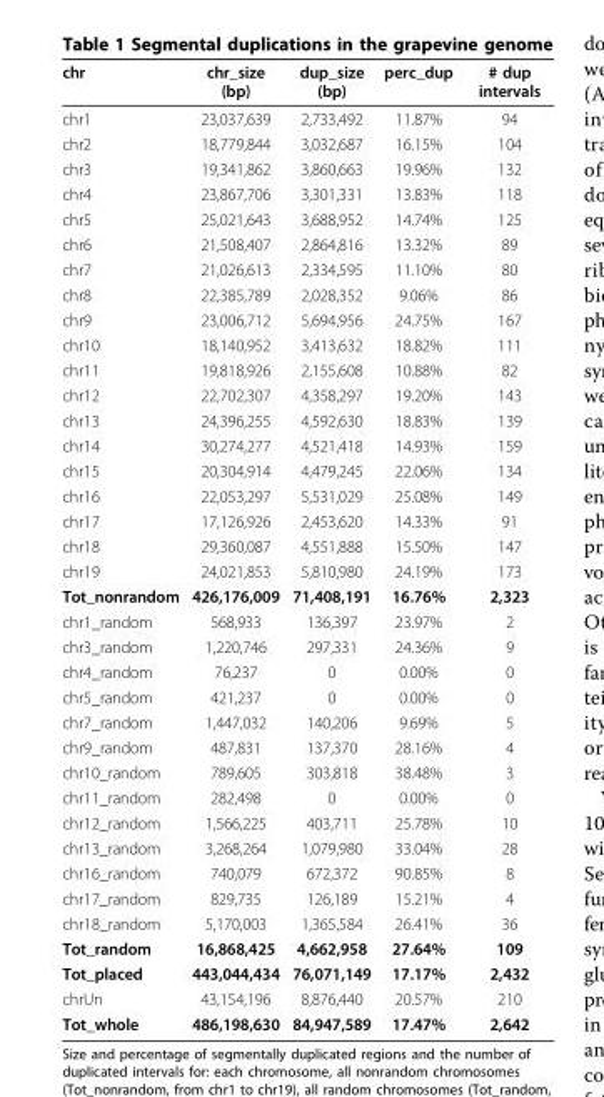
<table><thead><tr><td>chr</td><td>chr_size (bp)</td><td>dup_size (bp)</td><td>perc_dup</td><td># dup intervals</td></tr></thead><tbody><tr><td>chr1</td><td>23,037,639</td><td>2,733,492</td><td>11.87%</td><td>94</td></tr><tr><td>chr2</td><td>18,779,844</td><td>3,032,687</td><td>16.15%</td><td>104</td></tr><tr><td>chr3</td><td>19,341,862</td><td>3,860,663</td><td>19.96%</td><td>132</td></tr><tr><td>chr4</td><td>23,867,706</td><td>3,301,331</td><td>13.83%</td><td>118</td></tr><tr><td>chr5</td><td>25,021,643</td><td>3,688,952</td><td>14.74%</td><td>125</td></tr><tr><td>chr6</td><td>21,508,407</td><td>2,864,816</td><td>13.32%</td><td>89</td></tr><tr><td>chr7</td><td>21,026,613</td><td>2,334,595</td><td>11.10%</td><td>80</td></tr><tr><td>chr8</td><td>22,385,789</td><td>2,028,352</td><td>9.06%</td><td>86</td></tr><tr><td>chr9</td><td>23,006,712</td><td>5,694,956</td><td>24.75%</td><td>167</td></tr><tr><td>chr10</td><td>18,140,952</td><td>3,413,632</td><td>18.82%</td><td>111</td></tr><tr><td>chr11</td><td>19,818,926</td><td>2,155,608</td><td>10.88%</td><td>82</td></tr><tr><td>chr12</td><td>22,702,307</td><td>4,358,297</td><td>19.20%</td><td>143</td></tr><tr><td>chr13</td><td>24,396,255</td><td>4,592,630</td><td>18.83%</td><td>139</td></tr><tr><td>chr14</td><td>30,274,277</td><td>4,521,418</td><td>14.93%</td><td>159</td></tr><tr><td>chr15</td><td>20,304,914</td><td>4,479,245</td><td>22.06%</td><td>134</td></tr><tr><td>chr16</td><td>22,053,297</td><td>5,531,029</td><td>25.08%</td><td>149</td></tr><tr><td>chr17</td><td>17,126,926</td><td>2,453,620</td><td>14.33%</td><td>91</td></tr><tr><td>chr18</td><td>29,360,087</td><td>4,551,888</td><td>15.50%</td><td>147</td></tr><tr><td>chr19</td><td>24,021,853</td><td>5,810,980</td><td>24.19%</td><td>173</td></tr><tr><td>Tot_nonrandom</td><td>426,176,009</td><td>71,408,191</td><td>16.76%</td><td>2,323</td></tr><tr><td>chr1_random</td><td>568,933</td><td>136,397</td><td>23.97%</td><td>2</td></tr><tr><td>chr3_random</td><td>1,220,746</td><td>297,331</td><td>24.36%</td><td>9</td></tr><tr><td>chr4_random</td><td>76,237</td><td>0</td><td>0.00%</td><td>0</td></tr><tr><td>chr5_random</td><td>421,237</td><td>0</td><td>0.00%</td><td>0</td></tr><tr><td>chr7_random</td><td>1,447,032</td><td>140,206</td><td>9.69%</td><td>5</td></tr><tr><td>chr9_random</td><td>487,831</td><td>137,370</td><td>28.16%</td><td>4</td></tr><tr><td>chr10_random</td><td>789,605</td><td>303,818</td><td>38.48%</td><td>3</td></tr><tr><td>chr11_random</td><td>282,498</td><td>0</td><td>0.00%</td><td>0</td></tr><tr><td>chr12_random</td><td>1,566,225</td><td>403,711</td><td>25.78%</td><td>10</td></tr><tr><td>chr13_random</td><td>3,268,264</td><td>1,079,980</td><td>33.04%</td><td>28</td></tr><tr><td>chr16_random</td><td>740,079</td><td>672,372</td><td>90.85%</td><td>8</td></tr><tr><td>chr17_random</td><td>829,735</td><td>126,189</td><td>15.21%</td><td>4</td></tr><tr><td>chr18_random</td><td>5,170,003</td><td>1,365,584</td><td>26.41%</td><td>36</td></tr><tr><td>Tot_random</td><td>16,868,425</td><td>4,662,958</td><td>27.64%</td><td>109</td></tr><tr><td>Tot_placed</td><td>443,044,434</td><td>76,071,149</td><td>17.17%</td><td>2,432</td></tr><tr><td>chrUn</td><td>43,154,196</td><td>8,876,440</td><td>20.57%</td><td>210</td></tr><tr><td>Tot_whole</td><td>486,198,630</td><td>84,947,589</td><td>17.47%</td><td>2,642</td></tr></tbody></table>